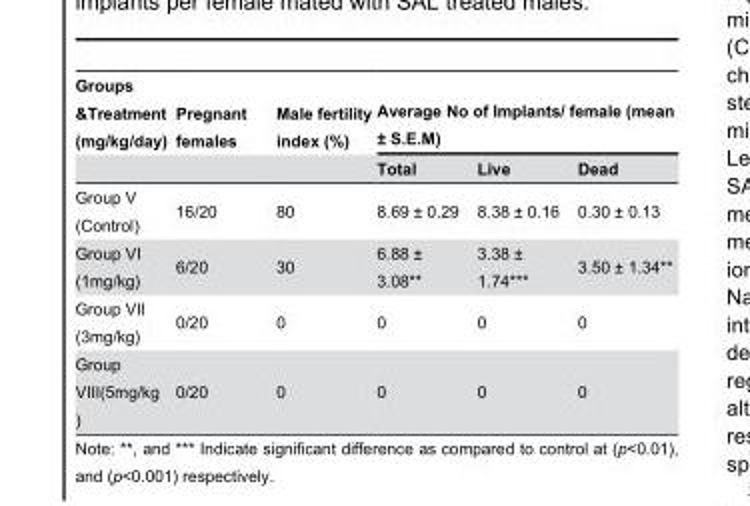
<table><thead><tr><td rowspan="2">Groups &amp;Treatment (mg/kg/day)</td><td rowspan="2">Pregnant females</td><td rowspan="2">Male fertility index (%)</td><td colspan="3">Average No of Implants/ female (mean ± S.E.M)</td></tr><tr><td>Total</td><td>Live</td><td>Dead</td></tr></thead><tbody><tr><td>Group V (Control)</td><td>16/20</td><td>80</td><td>8.69 ± 0.29</td><td>8.38 ± 0.16</td><td>0.30 ± 0.13</td></tr><tr><td>Group VI (1mg/kg)</td><td>6/20</td><td>30</td><td>6.88 ± 3.08**</td><td>3.38 ± 1.74***</td><td>3.50 ± 1.34**</td></tr><tr><td>Group VII (3mg/kg)</td><td>0/20</td><td>0</td><td>0</td><td>0</td><td>0</td></tr><tr><td>Group VIII(5mg/kg )</td><td>0/20</td><td>0</td><td>0</td><td>0</td><td>0</td></tr></tbody></table>